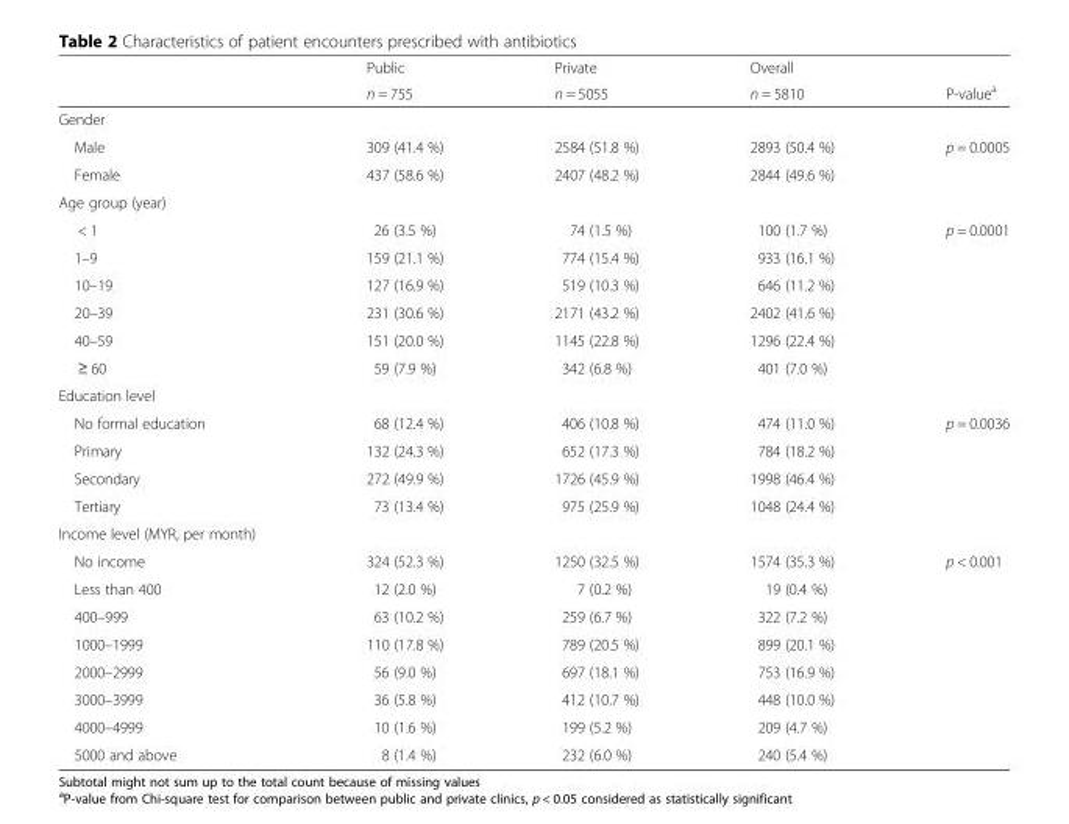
<table><thead><tr><td rowspan="2"></td><td rowspan="2">Public n = 755</td><td rowspan="2">Private n = 5055</td><td rowspan="2">Overall n = 5810</td><td rowspan="2">P-value<sup>a</sup></td></tr><tr></tr></thead><tbody><tr><td colspan="5">Gender</td></tr><tr><td>Male</td><td>309 (41.4 %)</td><td>2584 (51.8 %)</td><td>2893 (50.4 %)</td><td>p = 0.0005</td></tr><tr><td>Female</td><td>437 (58.6 %)</td><td>2407 (48.2 %)</td><td>2844 (49.6 %)</td><td></td></tr><tr><td colspan="5">Age group (year)</td></tr><tr><td>&lt; 1</td><td>26 (3.5 %)</td><td>74 (1.5 %)</td><td>100 (1.7 %)</td><td>p = 0.0001</td></tr><tr><td>1–9</td><td>159 (21.1 %)</td><td>774 (15.4 %)</td><td>933 (16.1 %)</td><td></td></tr><tr><td>10–19</td><td>127 (16.9 %)</td><td>519 (10.3 %)</td><td>646 (11.2 %)</td><td></td></tr><tr><td>20–39</td><td>231 (30.6 %)</td><td>2171 (43.2 %)</td><td>2402 (41.6 %)</td><td></td></tr><tr><td>40–59</td><td>151 (20.0 %)</td><td>1145 (22.8 %)</td><td>1296 (22.4 %)</td><td></td></tr><tr><td>≥ 60</td><td>59 (7.9 %)</td><td>342 (6.8 %)</td><td>401 (7.0 %)</td><td></td></tr><tr><td colspan="5">Education level</td></tr><tr><td>No formal education</td><td>68 (12.4 %)</td><td>406 (10.8 %)</td><td>474 (11.0 %)</td><td>p = 0.0036</td></tr><tr><td>Primary</td><td>132 (24.3 %)</td><td>652 (17.3 %)</td><td>784 (18.2 %)</td><td></td></tr><tr><td>Secondary</td><td>272 (49.9 %)</td><td>1726 (45.9 %)</td><td>1998 (46.4 %)</td><td></td></tr><tr><td>Tertiary</td><td>73 (13.4 %)</td><td>975 (25.9 %)</td><td>1048 (24.4 %)</td><td></td></tr><tr><td colspan="5">Income level (MYR, per month)</td></tr><tr><td>No income</td><td>324 (52.3 %)</td><td>1250 (32.5 %)</td><td>1574 (35.3 %)</td><td>p &lt; 0.001</td></tr><tr><td>Less than 400</td><td>12 (2.0 %)</td><td>7 (0.2 %)</td><td>19 (0.4 %)</td><td></td></tr><tr><td>400–999</td><td>63 (10.2 %)</td><td>259 (6.7 %)</td><td>322 (7.2 %)</td><td></td></tr><tr><td>1000–1999</td><td>110 (17.8 %)</td><td>789 (20.5 %)</td><td>899 (20.1 %)</td><td></td></tr><tr><td>2000–2999</td><td>56 (9.0 %)</td><td>697 (18.1 %)</td><td>753 (16.9 %)</td><td></td></tr><tr><td>3000–3999</td><td>36 (5.8 %)</td><td>412 (10.7 %)</td><td>448 (10.0 %)</td><td></td></tr><tr><td>4000–4999</td><td>10 (1.6 %)</td><td>199 (5.2 %)</td><td>209 (4.7 %)</td><td></td></tr><tr><td>5000 and above</td><td>8 (1.4 %)</td><td>232 (6.0 %)</td><td>240 (5.4 %)</td><td></td></tr></tbody></table>